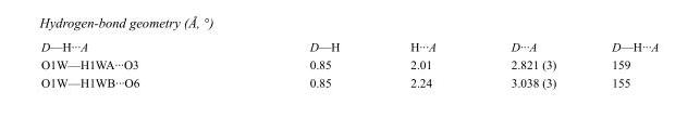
<table><tbody><tr><td>D—H···A</td><td>D—H</td><td>H···A</td><td>D···A</td><td>D—H···A</td></tr><tr><td>O1W—H1WA···O3</td><td>0.85</td><td>2.01</td><td>2.821 (3)</td><td>159</td></tr><tr><td>O1W—H1WB···O6</td><td>0.85</td><td>2.24</td><td>3.038 (3)</td><td>155</td></tr></tbody></table>